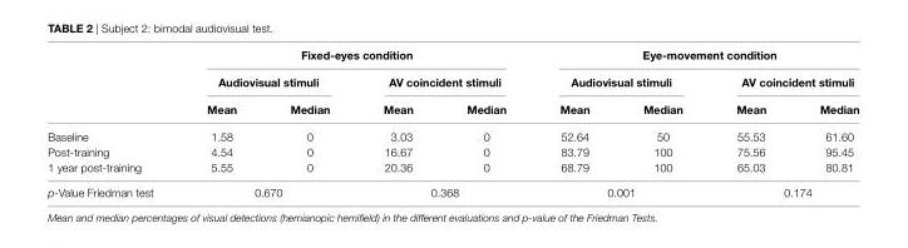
<table><thead><tr><td rowspan="3"></td><td colspan="4">Fixed-eyes condition</td><td colspan="4">eye-movement condition</td></tr><tr><td colspan="2">Audiovisual stimuli</td><td colspan="2">AV coincident stimuli</td><td colspan="2">Audiovisual stimuli</td><td colspan="2">AV coincident stimuli</td></tr><tr><td>Mean</td><td>Median</td><td>Mean</td><td>Median</td><td>Mean</td><td>Median</td><td>Mean</td><td>Median</td></tr></thead><tbody><tr><td>Baseline</td><td>1.58</td><td>0</td><td>3.03</td><td>0</td><td>52.64</td><td>50</td><td>55.53</td><td>61.60</td></tr><tr><td>Post-training</td><td>4.54</td><td>0</td><td>16.67</td><td>0</td><td>83.79</td><td>100</td><td>75.56</td><td>95.45</td></tr><tr><td>1 year post-training</td><td>5.55</td><td>0</td><td>20.36</td><td>0</td><td>68.79</td><td>100</td><td>65.03</td><td>80.81</td></tr><tr><td>p-Value Friedman test</td><td colspan="2">0.670</td><td colspan="2">0.368</td><td colspan="2">0.001</td><td colspan="2">0.174</td></tr></tbody></table>